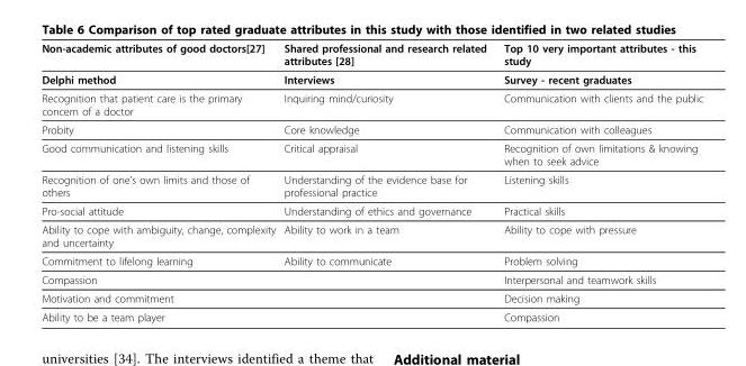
<table><thead><tr><td>Non-academic attributes of good doctors[27]</td><td>Shared professional and research related attributes [28]</td><td>Top 10 very important attributes - this study</td></tr></thead><tbody><tr><td>Delphi method</td><td>Interviews</td><td>Survey - recent graduates</td></tr><tr><td>Recognition that patient care is the primary concern of a doctor</td><td>Inquiring mind/curiosity</td><td>Communication with clients and the public</td></tr><tr><td>Probity</td><td>Core knowledge</td><td>Communication with colleagues</td></tr><tr><td>Good communication and listening skills</td><td>Critical appraisal</td><td>Recognition of own limitations &amp; knowing when to seek advice</td></tr><tr><td>Recognition of one’s own limits and those of others</td><td>Understanding of the evidence base for professional practice</td><td>Listening skills</td></tr><tr><td>Pro-social attitude</td><td>Understanding of ethics and governance</td><td>Practical skills</td></tr><tr><td>Ability to cope with ambiguity, change, complexity and uncertainty</td><td>Ability to work in a team</td><td>Ability to cope with pressure</td></tr><tr><td>Commitment to lifelong learning</td><td>Ability to communicate</td><td>Problem solving</td></tr><tr><td>Compassion</td><td></td><td>Interpersonal and teamwork skills</td></tr><tr><td>Motivation and commitment</td><td></td><td>Decision making</td></tr><tr><td>Ability to be a team player</td><td></td><td>Compassion</td></tr></tbody></table>